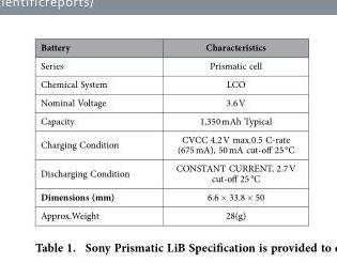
<table><thead><tr><td>Battery</td><td>Characteristics</td></tr></thead><tbody><tr><td>Series</td><td>Prismatic cell</td></tr><tr><td>Chemical System</td><td>LCO</td></tr><tr><td>Nominal Voltage</td><td>3.6 V</td></tr><tr><td>Capacity</td><td>1,350 mAh Typical</td></tr><tr><td>Charging Condition</td><td>CVCC 4.2 V max.0.5 C-rate (675 mA), 50 mA cut-off 25 °C</td></tr><tr><td>Discharging Condition</td><td>CONSTANT CURRENT, 2.7 V cut-off 25 °C</td></tr><tr><td>Dimensions (mm)</td><td>6.6 × 33.8 × 50</td></tr><tr><td>Approx.Weight</td><td>28(g)</td></tr></tbody></table>